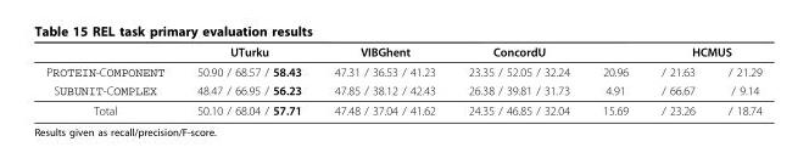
<table><thead><tr><td rowspan="2">PROTEIN-COMPONENT</td><td rowspan="2">UTurku 50.90 / 68.57 / 58.43</td><td rowspan="2">VIBGhent 47.31 / 36.53 / 41.23</td><td rowspan="2">ConcordU 23.35 / 52.05 / 32.24</td><td rowspan="2">20.96</td><td colspan="2">HCMUS</td></tr><tr><td>/ 21.63</td><td>/ 21.29</td></tr></thead><tbody><tr><td>SUBUNIT-COMPLEX</td><td>48.47 / 66.95 / 56.23</td><td>47.85 / 38.12 / 42.43</td><td>26.38 / 39.81 / 31.73</td><td>4.91</td><td>/ 66.67</td><td>/ 9.14</td></tr><tr><td>Total</td><td>50.10 / 68.04 / 57.71</td><td>47.48 / 37.04 / 41.62</td><td>24.35 / 46.85 / 32.04</td><td>15.69</td><td>/ 23.26</td><td>/ 18.74</td></tr></tbody></table>